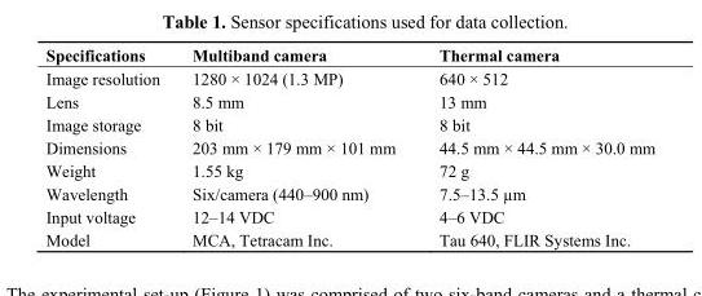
<table><thead><tr><td>Specifications</td><td>Multiband camera</td><td>Thermal camera</td></tr></thead><tbody><tr><td>Image resolution</td><td>1280 × 1024 (1.3 MP)</td><td>640 × 512</td></tr><tr><td>Lens</td><td>8.5 mm</td><td>13 mm</td></tr><tr><td>Image storage</td><td>8 bit</td><td>8 bit</td></tr><tr><td>Dimensions</td><td>203 mm × 179 mm × 101 mm</td><td>44.5 mm × 44.5 mm × 30.0 mm</td></tr><tr><td>Weight</td><td>1.55 kg</td><td>72 g</td></tr><tr><td>Wavelength</td><td>Six/camera (440–900 nm)</td><td>7.5–13.5 µm</td></tr><tr><td>Input voltage</td><td>12–14 VDC</td><td>4–6 VDC</td></tr><tr><td>Model</td><td>MCA, Tetracam Inc.</td><td>Tau 640, FLIR Systems Inc.</td></tr></tbody></table>